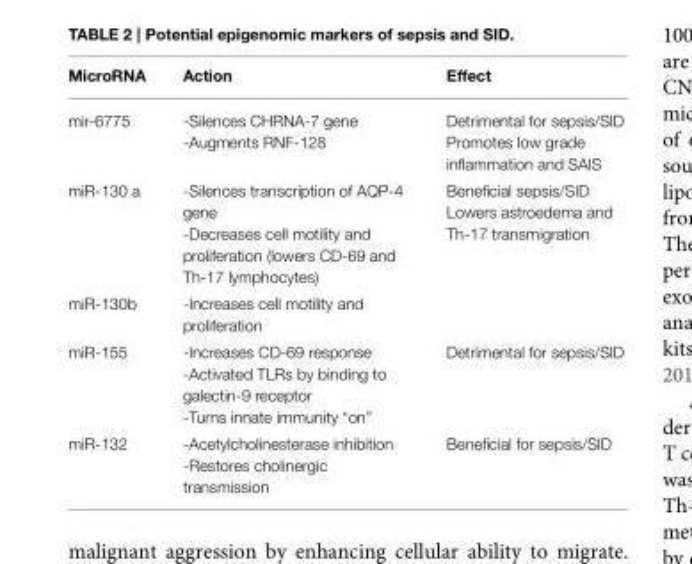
<table><thead><tr><td>MicroRNA</td><td>Action</td><td>Effect</td></tr></thead><tbody><tr><td>mir-6775</td><td>-Silences CHRNA-7 gene -Augments RNF-128</td><td>Detrimental for sepsis/SID Promotes low grade inflammation and SAIS</td></tr><tr><td>miR-130 a</td><td>-Silences transcription of AQP-4 gene -Decreases cell motility and proliferation (lowers CD-69 and Th-17 lymphocytes)</td><td>Beneficial sepsis/SID Lowers astroedema and Th-17 transmigration</td></tr><tr><td>miR-130b</td><td>-Increases cell motility and proliferation</td><td></td></tr><tr><td>miR-155</td><td>-Increases CD-69 response -Activated TLRs by binding to galectin-9 receptor -Turns innate immunity “on”</td><td>Detrimental for sepsis/SID</td></tr><tr><td>miR-132</td><td>-Acetylcholinesterase inhibition -Restores cholinergic transmission</td><td>Beneficial for sepsis/SID</td></tr></tbody></table>